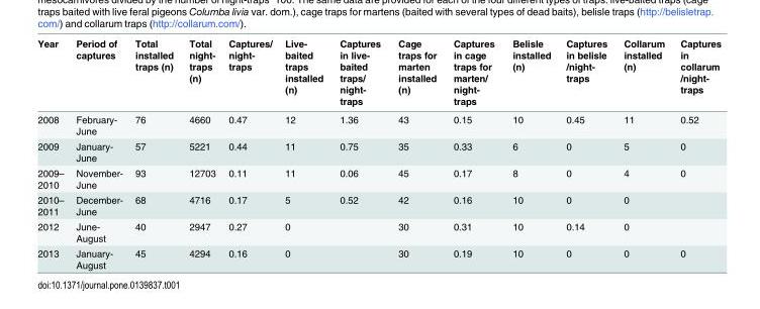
<table><thead><tr><td>Year</td><td>Period of captures</td><td>Total installed traps (n)</td><td>Total night- traps (n)</td><td>Captures/ night- traps</td><td>Live- baited traps installed (n)</td><td>Captures in live- baited traps/ night- traps</td><td>Cage traps for marten installed (n)</td><td>Captures in cage traps for marten/ night- traps</td><td>Belisle installed (n)</td><td>Captures in belisle /night- traps</td><td>Collarum installed (n)</td><td>Captures in collarum /night- traps</td></tr></thead><tbody><tr><td>2008</td><td>February- June</td><td>76</td><td>4660</td><td>0.47</td><td>12</td><td>1.36</td><td>43</td><td>0.15</td><td>10</td><td>0.45</td><td>11</td><td>0.52</td></tr><tr><td>2009</td><td>January- June</td><td>57</td><td>5221</td><td>0.44</td><td>11</td><td>0.75</td><td>35</td><td>0.33</td><td>6</td><td>0</td><td>5</td><td>0</td></tr><tr><td>2009– 2010</td><td>November- June</td><td>93</td><td>12703</td><td>0.11</td><td>11</td><td>0.06</td><td>45</td><td>0.17</td><td>8</td><td>0</td><td>4</td><td>0</td></tr><tr><td>2010– 2011</td><td>December- June</td><td>68</td><td>4716</td><td>0.17</td><td>5</td><td>0.52</td><td>42</td><td>0.16</td><td>10</td><td>0</td><td>0</td><td></td></tr><tr><td>2012</td><td>June- August</td><td>40</td><td>2947</td><td>0.27</td><td>0</td><td></td><td>30</td><td>0.31</td><td>10</td><td>0.14</td><td>0</td><td></td></tr><tr><td>2013</td><td>January- August</td><td>45</td><td>4294</td><td>0.16</td><td>0</td><td></td><td>30</td><td>0.19</td><td>10</td><td>0</td><td>0</td><td>0</td></tr></tbody></table>